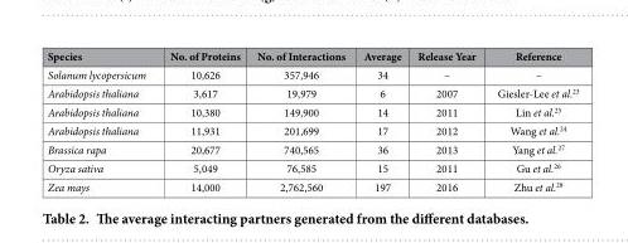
<table><thead><tr><td>Species</td><td>No. of Proteins</td><td>No. of Interactions</td><td>Average</td><td>Release Year</td><td>Reference</td></tr></thead><tbody><tr><td>Solanum lycopersicum</td><td>10,626</td><td>357,946</td><td>34</td><td>–</td><td>–</td></tr><tr><td>Arabidopsis thaliana</td><td>3,617</td><td>19,979</td><td>6</td><td>2007</td><td>Giesler-Lee et al.<sup>23</sup></td></tr><tr><td>Arabidopsis thaliana</td><td>10,380</td><td>149,900</td><td>14</td><td>2011</td><td>Lin et al.<sup>25</sup></td></tr><tr><td>Arabidopsis thaliana</td><td>11,931</td><td>201,699</td><td>17</td><td>2012</td><td>Wang et al.<sup>24</sup></td></tr><tr><td>Brassica rapa</td><td>20,677</td><td>740,565</td><td>36</td><td>2013</td><td>Yang et al.<sup>27</sup></td></tr><tr><td>Oryza sativa</td><td>5,049</td><td>76,585</td><td>15</td><td>2011</td><td>Gu et al.<sup>26</sup></td></tr><tr><td>Zea mays</td><td>14,000</td><td>2,762,560</td><td>197</td><td>2016</td><td>Zhu et al.<sup>28</sup></td></tr></tbody></table>